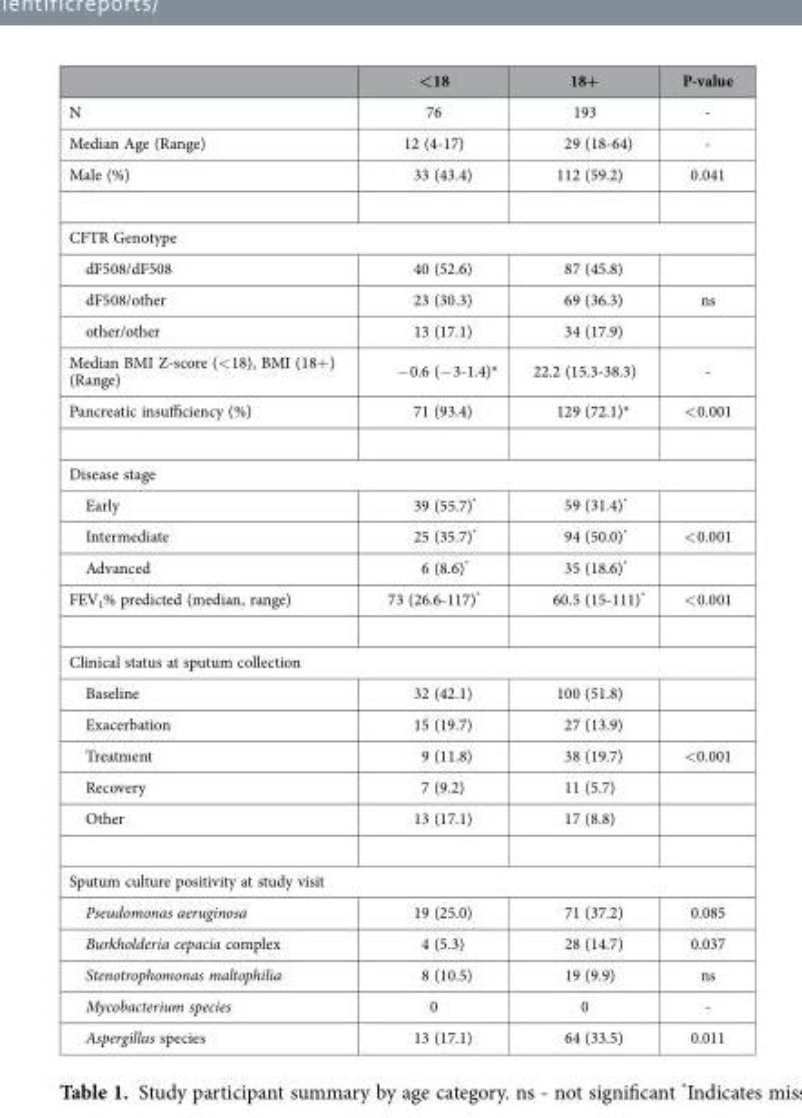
<table><thead><tr><td></td><td>&lt;18</td><td>18+</td><td>P-value</td></tr></thead><tbody><tr><td>N</td><td>76</td><td>193</td><td>-</td></tr><tr><td>Median Age (Range)</td><td>12 (4-17)</td><td>29 (18-64)</td><td>-</td></tr><tr><td>Male (%)</td><td>33 (43.4)</td><td>112 (59.2)</td><td>0.041</td></tr><tr><td colspan="4">CFTR Genotype</td></tr><tr><td>dF508/dF508</td><td>40 (52.6)</td><td>87 (45.8)</td><td></td></tr><tr><td>dF508/other</td><td>23 (30.3)</td><td>69 (36.3)</td><td>ns</td></tr><tr><td>other/other</td><td>13 (17.1)</td><td>34 (17.9)</td><td></td></tr><tr><td>Median BMI Z-score (&lt; 18), BMI (18+ ) (Range)</td><td>− 0.6 (− 3-1.4)*</td><td>22.2 (15.3-38.3)</td><td>-</td></tr><tr><td>Pancreatic insufficiency (%)</td><td>71 (93.4)</td><td>129 (72.1)*</td><td>&lt; 0.001</td></tr><tr><td colspan="4">Disease stage</td></tr><tr><td>Early</td><td>39 (55.7)*</td><td>59 (31.4)*</td><td></td></tr><tr><td>Intermediate</td><td>25 (35.7)*</td><td>94 (50.0)*</td><td>&lt; 0.001</td></tr><tr><td>Advanced</td><td>6 (8.6)*</td><td>35 (18.6)*</td><td></td></tr><tr><td>FEV<sub>1</sub>% predicted (median, range)</td><td>73 (26.6-117)*</td><td>60.5 (15-111)*</td><td>&lt; 0.001</td></tr><tr><td colspan="4">Clinical status at sputum collection</td></tr><tr><td>Baseline</td><td>32 (42.1)</td><td>100 (51.8)</td><td></td></tr><tr><td>Exacerbation</td><td>15 (19.7)</td><td>27 (13.9)</td><td></td></tr><tr><td>Treatment</td><td>9 (11.8)</td><td>38 (19.7)</td><td>&lt;0.001</td></tr><tr><td>Recovery</td><td>7 (9.2)</td><td>11 (5.7)</td><td></td></tr><tr><td>Other</td><td>13 (17.1)</td><td>17 (8.8)</td><td></td></tr><tr><td colspan="4">Sputum culture positivity at study visit</td></tr><tr><td>Pseudomonas aeruginosa</td><td>19 (25.0)</td><td>71 (37.2)</td><td>0.085</td></tr><tr><td>Burkholderia cepacia complex</td><td>4 (5.3)</td><td>28 (14.7)</td><td>0.037</td></tr><tr><td>Stenotrophomonas maltophilia</td><td>8 (10.5)</td><td>19 (9.9)</td><td>ns</td></tr><tr><td>Mycobacterium species</td><td>0</td><td>0</td><td>-</td></tr><tr><td>Aspergillus species</td><td>13 (17.1)</td><td>64 (33.5)</td><td>0.011</td></tr></tbody></table>